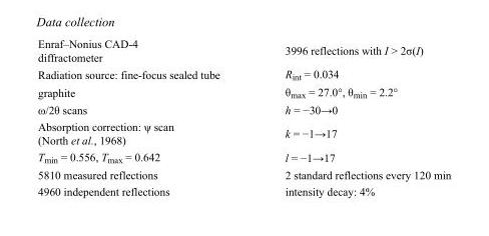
<table><tbody><tr><td>Enraf–Nonius CAD-4 diffractometer</td><td>3996 reflections with I &gt; 2σ(I)</td></tr><tr><td>Radiation source: fine-focus sealed tube</td><td>R<sub>int</sub> = 0.034</td></tr><tr><td>graphite</td><td>θ<sub>max</sub> = 27.0°, θ<sub>min</sub> = 2.2°</td></tr><tr><td>ω/2θ scans</td><td>h = −30→0</td></tr><tr><td>Absorption correction: ψ scan (North et al., 1968)</td><td>k = −1→17</td></tr><tr><td>T<sub>min</sub> = 0.556, T<sub>max</sub> = 0.642</td><td>l = −1→17</td></tr><tr><td>5810 measured reflections</td><td>2 standard reflections every 120 min</td></tr><tr><td>4960 independent reflections</td><td>intensity decay: 4%</td></tr></tbody></table>